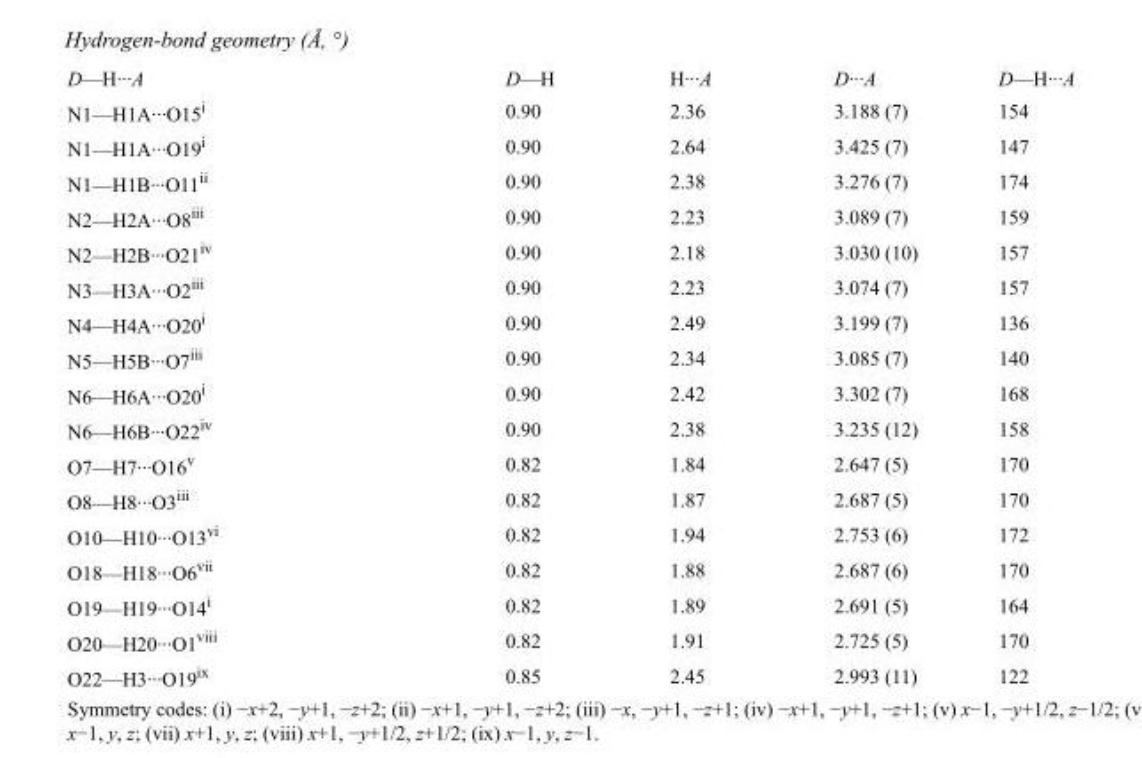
<table><tbody><tr><td>D—H···A</td><td>D—H</td><td>H···A</td><td>D···A</td><td>D—H···A</td></tr><tr><td>N1—H1A···O15<sup>i</sup></td><td>0.90</td><td>2.36</td><td>3.188 (7)</td><td>154</td></tr><tr><td>N1—H1A···O19<sup>i</sup></td><td>0.90</td><td>2.64</td><td>3.425 (7)</td><td>147</td></tr><tr><td>N1—H1B···O11<sup>ii</sup></td><td>0.90</td><td>2.38</td><td>3.276 (7)</td><td>174</td></tr><tr><td>N2—H2A···O8<sup>iii</sup></td><td>0.90</td><td>2.23</td><td>3.089 (7)</td><td>159</td></tr><tr><td>N2—H2B···O21<sup>iv</sup></td><td>0.90</td><td>2.18</td><td>3.030 (10)</td><td>157</td></tr><tr><td>N3—H3A···O2<sup>iii</sup></td><td>0.90</td><td>2.23</td><td>3.074 (7)</td><td>157</td></tr><tr><td>N4—H4A···O20<sup>i</sup></td><td>0.90</td><td>2.49</td><td>3.199 (7)</td><td>136</td></tr><tr><td>N5—H5B···O7<sup>iii</sup></td><td>0.90</td><td>2.34</td><td>3.085 (7)</td><td>140</td></tr><tr><td>N6—H6A···O20<sup>i</sup></td><td>0.90</td><td>2.42</td><td>3.302 (7)</td><td>168</td></tr><tr><td>N6—H6B···O22<sup>iv</sup></td><td>0.90</td><td>2.38</td><td>3.235 (12)</td><td>158</td></tr><tr><td>O7—H7···O16<sup>v</sup></td><td>0.82</td><td>1.84</td><td>2.647 (5)</td><td>170</td></tr><tr><td>O8—H8···O3<sup>iii</sup></td><td>0.82</td><td>1.87</td><td>2.687 (5)</td><td>170</td></tr><tr><td>O10—H10···O13<sup>vi</sup></td><td>0.82</td><td>1.94</td><td>2.753 (6)</td><td>172</td></tr><tr><td>O18—H18···O6<sup>vii</sup></td><td>0.82</td><td>1.88</td><td>2.687 (6)</td><td>170</td></tr><tr><td>O19—H19···O14<sup>i</sup></td><td>0.82</td><td>1.89</td><td>2.691 (5)</td><td>164</td></tr><tr><td>O20—H20···O1<sup>viii</sup></td><td>0.82</td><td>1.91</td><td>2.725 (5)</td><td>170</td></tr><tr><td>O22—H3···O19<sup>ix</sup></td><td>0.85</td><td>2.45</td><td>2.993 (11)</td><td>122</td></tr></tbody></table>